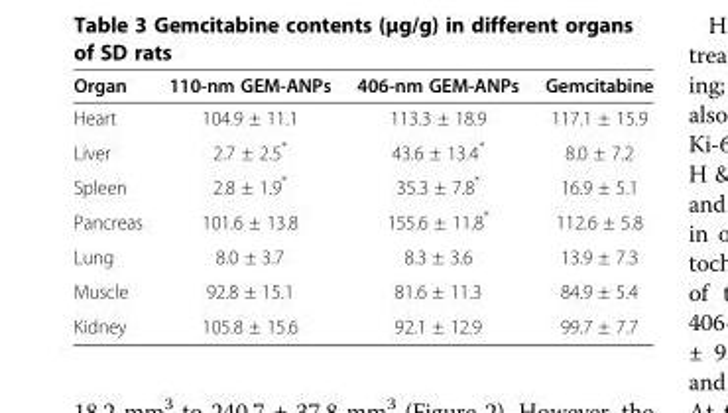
<table><thead><tr><td>Organ</td><td>110-nm GEM-ANPs</td><td>406-nm GEM-ANPs</td><td>Gemcitabine</td></tr></thead><tbody><tr><td>Heart</td><td>104.9 ± 11.1</td><td>113.3 ± 18.9</td><td>117.1 ± 15.9</td></tr><tr><td>Liver</td><td>2.7 ± 2.5*</td><td>43.6 ± 13.4*</td><td>8.0 ± 7.2</td></tr><tr><td>Spleen</td><td>2.8 ± 1.9*</td><td>35.3 ± 7.8*</td><td>16.9 ± 5.1</td></tr><tr><td>Pancreas</td><td>101.6 ± 13.8</td><td>155.6 ± 11.8*</td><td>112.6 ± 5.8</td></tr><tr><td>Lung</td><td>8.0 ± 3.7</td><td>8.3 ± 3.6</td><td>13.9 ± 7.3</td></tr><tr><td>Muscle</td><td>92.8 ± 15.1</td><td>81.6 ± 11.3</td><td>84.9 ± 5.4</td></tr><tr><td>Kidney</td><td>105.8 ± 15.6</td><td>92.1 ± 12.9</td><td>99.7 ± 7.7</td></tr></tbody></table>